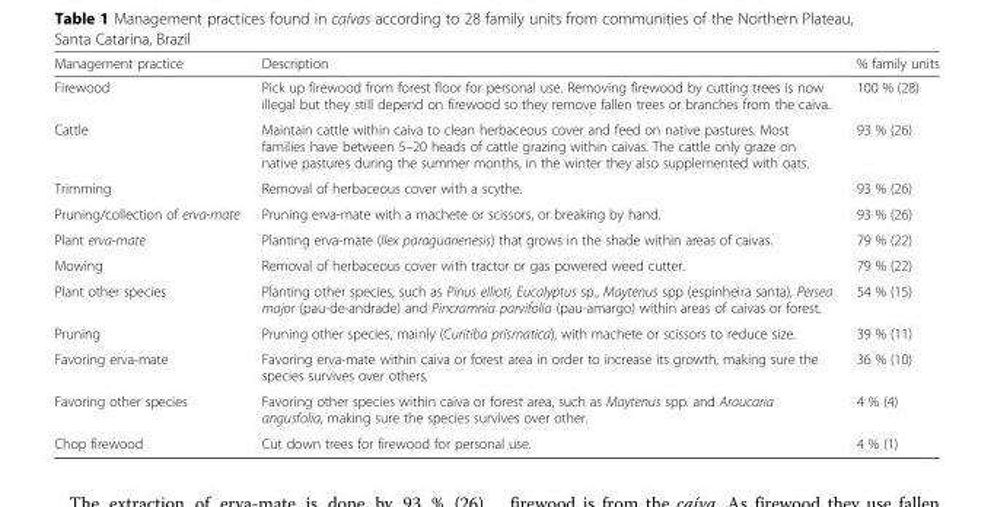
<table><thead><tr><td>Management practice</td><td>Description</td><td>% family units</td></tr></thead><tbody><tr><td>Firewood</td><td>Pick up firewood from forest floor for personal use. Removing firewood by cutting trees is now illegal but they still depend on firewood so they remove fallen trees or branches from the caiva.</td><td>100 % (28)</td></tr><tr><td>Cattle</td><td>Maintain cattle within caiva to clean herbaceous cover and feed on native pastures. Most families have between 5–20 heads of cattle grazing within caivas. The cattle only graze on native pastures during the summer months, in the winter they also supplemented with oats.</td><td>93 % (26)</td></tr><tr><td>Trimming</td><td>Removal of herbaceous cover with a scythe.</td><td>93 % (26)</td></tr><tr><td>Pruning/collection of erva-mate</td><td>Pruning erva-mate with a machete or scissors, or breaking by hand.</td><td>93 % (26)</td></tr><tr><td>Plant erva-mate</td><td>Planting erva-mate (Ilex paraguarienesis) that grows in the shade within areas of caivas.</td><td>79 % (22)</td></tr><tr><td>Mowing</td><td>Removal of herbaceous cover with tractor or gas powered weed cutter.</td><td>79 % (22)</td></tr><tr><td>Plant other species</td><td>Planting other species, such as Pinus ellioti, Eucalyptus sp., Maytenus spp (espinheira santa), Persea major (pau-de-andrade) and Pincramnia parvifolia (pau-amargo) within areas of caivas or forest.</td><td>54 % (15)</td></tr><tr><td>Pruning</td><td>Pruning other species, mainly (Curitiba prismatica), with machete or scissors to reduce size.</td><td>39 % (11)</td></tr><tr><td>Favoring erva-mate</td><td>Favoring erva-mate within caiva or forest area in order to increase its growth, making sure the species survives over others.</td><td>36 % (10)</td></tr><tr><td>Favoring other species</td><td>Favoring other species within caiva or forest area, such as Maytenus spp. and Araucaria angusfolia, making sure the species survives over other.</td><td>4 % (4)</td></tr><tr><td>Chop firewood</td><td>Cut down trees for firewood for personal use.</td><td>4 % (1)</td></tr></tbody></table>